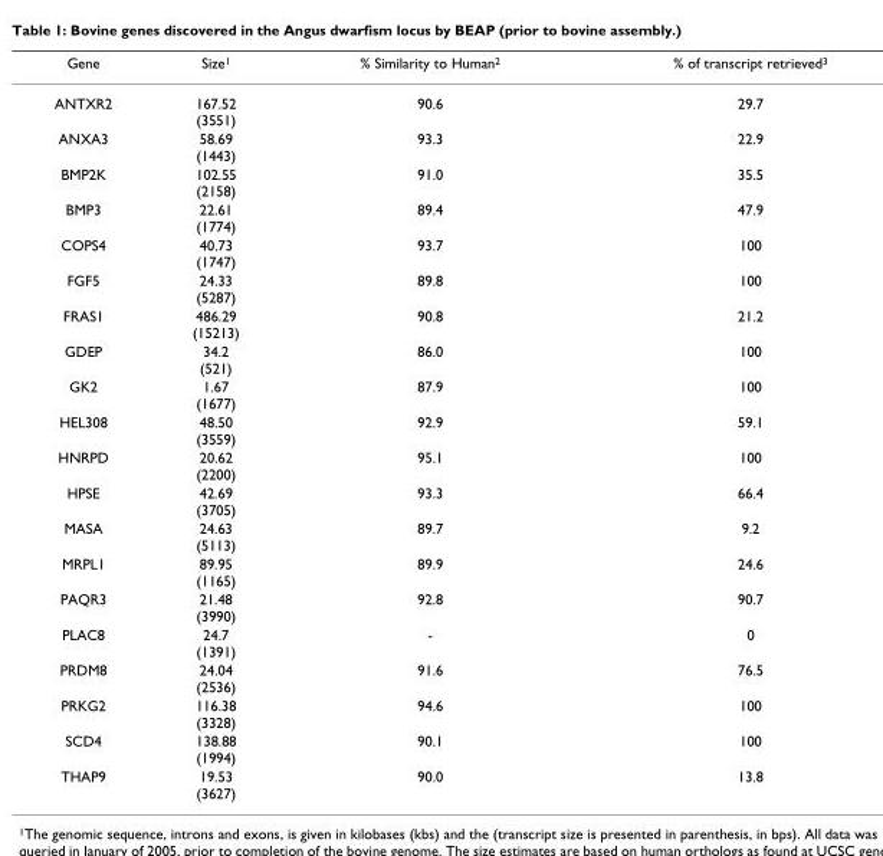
<table><thead><tr><td>Gene</td><td>Size<sup>1</sup></td><td>% Similarity to Human<sup>2</sup></td><td>% of transcript retrieved<sup>3</sup></td></tr></thead><tbody><tr><td>ANTXR2</td><td>167.52 (3551)</td><td>90.6</td><td>29.7</td></tr><tr><td>ANXA3</td><td>58.69 (1443)</td><td>93.3</td><td>22.9</td></tr><tr><td>BMP2K</td><td>102.55 (2158)</td><td>91.0</td><td>35.5</td></tr><tr><td>BMP3</td><td>22.61 (1774)</td><td>89.4</td><td>47.9</td></tr><tr><td>COPS4</td><td>40.73 (1747)</td><td>93.7</td><td>100</td></tr><tr><td>FGF5</td><td>24.33 (5287)</td><td>89.8</td><td>100</td></tr><tr><td>FRAS1</td><td>486.29 (15213)</td><td>90.8</td><td>21.2</td></tr><tr><td>GDEP</td><td>34.2 (521)</td><td>86.0</td><td>100</td></tr><tr><td>GK2</td><td>1.67 (1677)</td><td>87.9</td><td>100</td></tr><tr><td>HEL308</td><td>48.50 (3559)</td><td>92.9</td><td>59.1</td></tr><tr><td>HNRPD</td><td>20.62 (2200)</td><td>95.1</td><td>100</td></tr><tr><td>HPSE</td><td>42.69 (3705)</td><td>93.3</td><td>66.4</td></tr><tr><td>MASA</td><td>24.63 (5113)</td><td>89.7</td><td>9.2</td></tr><tr><td>MRPL1</td><td>89.95 (1165)</td><td>89.9</td><td>24.6</td></tr><tr><td>PAQR3</td><td>21.48 (3990)</td><td>92.8</td><td>90.7</td></tr><tr><td>PLAC8</td><td>24.7 (1391)</td><td>-</td><td>0</td></tr><tr><td>PRDM8</td><td>24.04 (2536)</td><td>91.6</td><td>76.5</td></tr><tr><td>PRKG2</td><td>116.38 (3328)</td><td>94.6</td><td>100</td></tr><tr><td>SCD4</td><td>138.88 (1994)</td><td>90.1</td><td>100</td></tr><tr><td>THAP9</td><td>19.53 (3627)</td><td>90.0</td><td>13.8</td></tr></tbody></table>